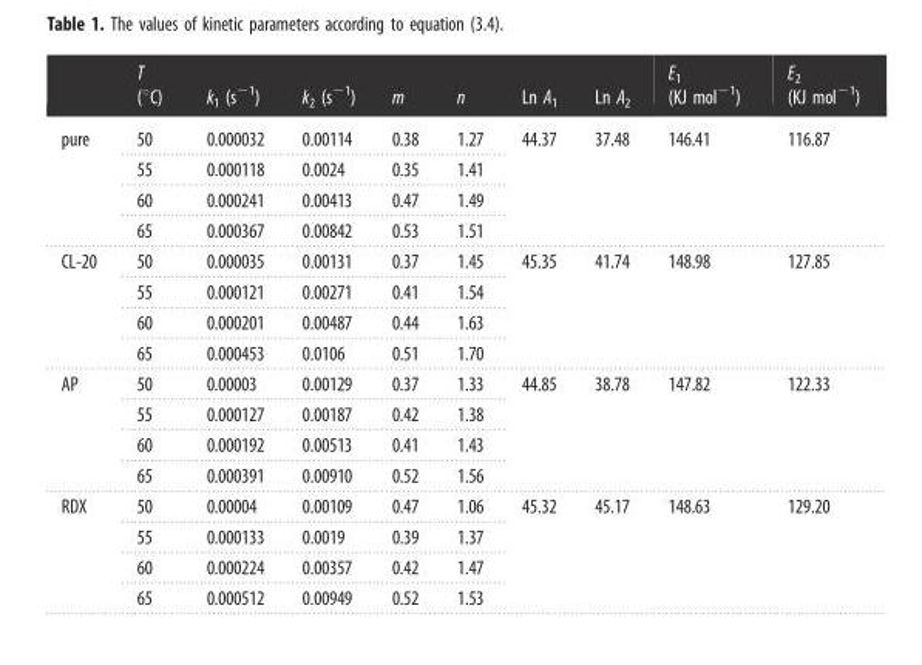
<table><thead><tr><td></td><td>T (°C)</td><td>k<sub>1</sub> (s<sup>−1</sup>)</td><td>k<sub>2</sub> (s<sup>−1</sup>)</td><td>m</td><td>n</td><td>Ln A<sub>1</sub></td><td>Ln A<sub>2</sub></td><td>E<sub>1</sub> (KJ mol<sup>−1</sup>)</td><td>E<sub>2</sub> (KJ mol<sup>−1</sup>)</td></tr></thead><tbody><tr><td rowspan="4">pure</td><td>50</td><td>0.000032</td><td>0.00114</td><td>0.38</td><td>1.27</td><td rowspan="4">44.37</td><td rowspan="4">37.48</td><td rowspan="4">146.41</td><td rowspan="4">116.87</td></tr><tr><td>55</td><td>0.000118</td><td>0.0024</td><td>0.35</td><td>1.41</td></tr><tr><td>60</td><td>0.000241</td><td>0.00413</td><td>0.47</td><td>1.49</td></tr><tr><td>65</td><td>0.000367</td><td>0.00842</td><td>0.53</td><td>1.51</td></tr><tr><td rowspan="4">CL-20</td><td>50</td><td>0.000035</td><td>0.00131</td><td>0.37</td><td>1.45</td><td rowspan="4">45.35</td><td rowspan="4">41.74</td><td rowspan="4">148.98</td><td rowspan="4">127.85</td></tr><tr><td>55</td><td>0.000121</td><td>0.00271</td><td>0.41</td><td>1.54</td></tr><tr><td>60</td><td>0.000201</td><td>0.00487</td><td>0.44</td><td>1.63</td></tr><tr><td>65</td><td>0.000453</td><td>0.0106</td><td>0.51</td><td>1.70</td></tr><tr><td rowspan="4">AP</td><td>50</td><td>0.00003</td><td>0.00129</td><td>0.37</td><td>1.33</td><td rowspan="4">44.85</td><td rowspan="4">38.78</td><td rowspan="4">147.82</td><td rowspan="4">122.33</td></tr><tr><td>55</td><td>0.000127</td><td>0.00187</td><td>0.42</td><td>1.38</td></tr><tr><td>60</td><td>0.000192</td><td>0.00513</td><td>0.41</td><td>1.43</td></tr><tr><td>65</td><td>0.000391</td><td>0.00910</td><td>0.52</td><td>1.56</td></tr><tr><td rowspan="4">RDX</td><td>50</td><td>0.00004</td><td>0.00109</td><td>0.47</td><td>1.06</td><td rowspan="4">45.32</td><td rowspan="4">45.17</td><td rowspan="4">148.63</td><td rowspan="4">129.20</td></tr><tr><td>55</td><td>0.000133</td><td>0.0019</td><td>0.39</td><td>1.37</td></tr><tr><td>60</td><td>0.000224</td><td>0.00357</td><td>0.42</td><td>1.47</td></tr><tr><td>65</td><td>0.000512</td><td>0.00949</td><td>0.52</td><td>1.53</td></tr></tbody></table>